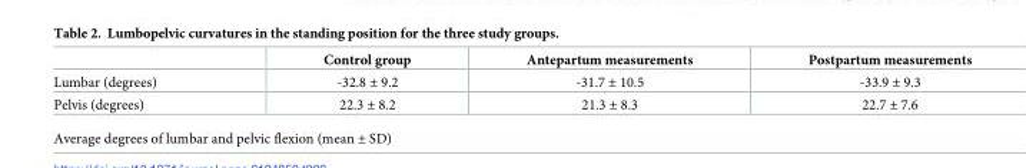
<table><thead><tr><td></td><td>Control group</td><td>Antepartum measurements</td><td>Postpartum measurements</td></tr></thead><tbody><tr><td>Lumbar (degrees)</td><td>-32.8 ± 9.2</td><td>-31.7 ± 10.5</td><td>-33.9 ± 9.3</td></tr><tr><td>Pelvis (degrees)</td><td>22.3 ± 8.2</td><td>21.3 ± 8.3</td><td>22.7 ± 7.6</td></tr></tbody></table>